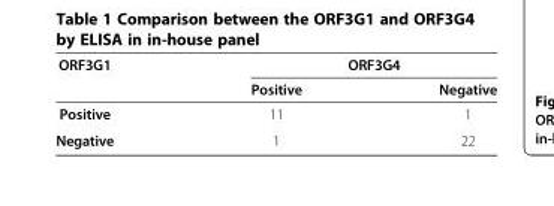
<table><thead><tr><td rowspan="2">ORF3G1</td><td colspan="2">ORF3G4</td></tr><tr><td>Positive</td><td>Negative</td></tr></thead><tbody><tr><td>Positive</td><td>11</td><td>1</td></tr><tr><td>Negative</td><td>1</td><td>22</td></tr></tbody></table>